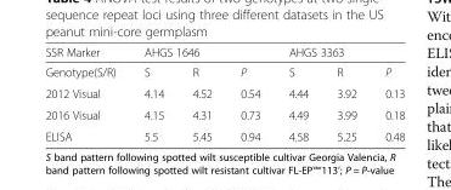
<table><thead><tr><td rowspan="2">SSR Marker Genotype(S/R)</td><td colspan="3">AHGS 1646</td><td colspan="3">AHGS 3363</td></tr><tr><td>S</td><td>R</td><td>P</td><td>S</td><td>R</td><td>P</td></tr></thead><tbody><tr><td>2012 Visual</td><td>4.14</td><td>4.52</td><td>0.54</td><td>4.44</td><td>3.92</td><td>0.13</td></tr><tr><td>2016 Visual</td><td>4.15</td><td>4.31</td><td>0.73</td><td>4.49</td><td>3.99</td><td>0.18</td></tr><tr><td>ELISA</td><td>5.5</td><td>5.45</td><td>0.94</td><td>4.58</td><td>5.25</td><td>0.48</td></tr></tbody></table>